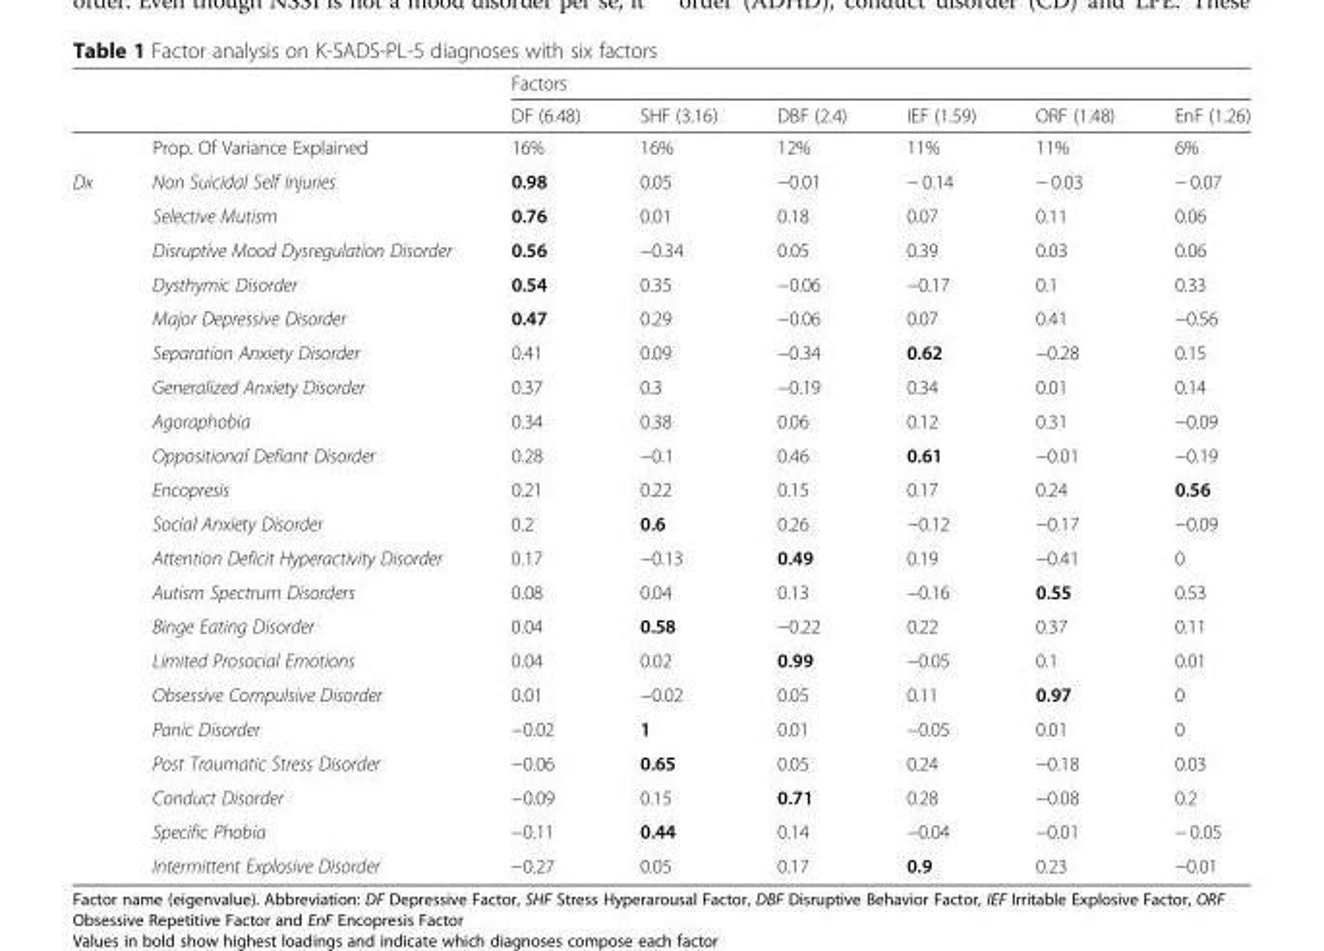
<table><thead><tr><td rowspan="2"></td><td rowspan="2"></td><td colspan="6">Factors</td></tr><tr><td>DF (6.48)</td><td>SHF (3.16)</td><td>DBF (2.4)</td><td>IEF (1.59)</td><td>ORF (1.48)</td><td>EnF (1.26)</td></tr></thead><tbody><tr><td></td><td>Prop. Of Variance Explained</td><td>16%</td><td>16%</td><td>12%</td><td>11%</td><td>11%</td><td>6%</td></tr><tr><td rowspan="21">Dx</td><td>Non Suicidal Self Injuries</td><td>0.98</td><td>0.05</td><td>−0.01</td><td>− 0.14</td><td>− 0.03</td><td>− 0.07</td></tr><tr><td>Selective Mutism</td><td>0.76</td><td>0.01</td><td>0.18</td><td>0.07</td><td>0.11</td><td>0.06</td></tr><tr><td>Disruptive Mood Dysregulation Disorder</td><td>0.56</td><td>−0.34</td><td>0.05</td><td>0.39</td><td>0.03</td><td>0.06</td></tr><tr><td>Dysthymic Disorder</td><td>0.54</td><td>0.35</td><td>−0.06</td><td>−0.17</td><td>0.1</td><td>0.33</td></tr><tr><td>Major Depressive Disorder</td><td>0.47</td><td>0.29</td><td>−0.06</td><td>0.07</td><td>0.41</td><td>−0.56</td></tr><tr><td>Separation Anxiety Disorder</td><td>0.41</td><td>0.09</td><td>−0.34</td><td>0.62</td><td>−0.28</td><td>0.15</td></tr><tr><td>Generalized Anxiety Disorder</td><td>0.37</td><td>0.3</td><td>−0.19</td><td>0.34</td><td>0.01</td><td>0.14</td></tr><tr><td>Agoraphobia</td><td>0.34</td><td>0.38</td><td>0.06</td><td>0.12</td><td>0.31</td><td>−0.09</td></tr><tr><td>Oppositional Defiant Disorder</td><td>0.28</td><td>−0.1</td><td>0.46</td><td>0.61</td><td>−0.01</td><td>−0.19</td></tr><tr><td>Encopresis</td><td>0.21</td><td>0.22</td><td>0.15</td><td>0.17</td><td>0.24</td><td>0.56</td></tr><tr><td>Social Anxiety Disorder</td><td>0.2</td><td>0.6</td><td>0.26</td><td>−0.12</td><td>−0.17</td><td>−0.09</td></tr><tr><td>Attention Deficit Hyperactivity Disorder</td><td>0.17</td><td>−0.13</td><td>0.49</td><td>0.19</td><td>−0.41</td><td>0</td></tr><tr><td>Autism Spectrum Disorders</td><td>0.08</td><td>0.04</td><td>0.13</td><td>−0.16</td><td>0.55</td><td>0.53</td></tr><tr><td>Binge Eating Disorder</td><td>0.04</td><td>0.58</td><td>−0.22</td><td>0.22</td><td>0.37</td><td>0.11</td></tr><tr><td>Limited Prosocial Emotions</td><td>0.04</td><td>0.02</td><td>0.99</td><td>−0.05</td><td>0.1</td><td>0.01</td></tr><tr><td>Obsessive Compulsive Disorder</td><td>0.01</td><td>−0.02</td><td>0.05</td><td>0.11</td><td>0.97</td><td>0</td></tr><tr><td>Panic Disorder</td><td>−0.02</td><td>1</td><td>0.01</td><td>−0.05</td><td>0.01</td><td>0</td></tr><tr><td>Post Traumatic Stress Disorder</td><td>−0.06</td><td>0.65</td><td>0.05</td><td>0.24</td><td>−0.18</td><td>0.03</td></tr><tr><td>Conduct Disorder</td><td>−0.09</td><td>0.15</td><td>0.71</td><td>0.28</td><td>−0.08</td><td>0.2</td></tr><tr><td>Specific Phobia</td><td>−0.11</td><td>0.44</td><td>0.14</td><td>−0.04</td><td>−0.01</td><td>− 0.05</td></tr><tr><td>Intermittent Explosive Disorder</td><td>−0.27</td><td>0.05</td><td>0.17</td><td>0.9</td><td>0.23</td><td>−0.01</td></tr></tbody></table>